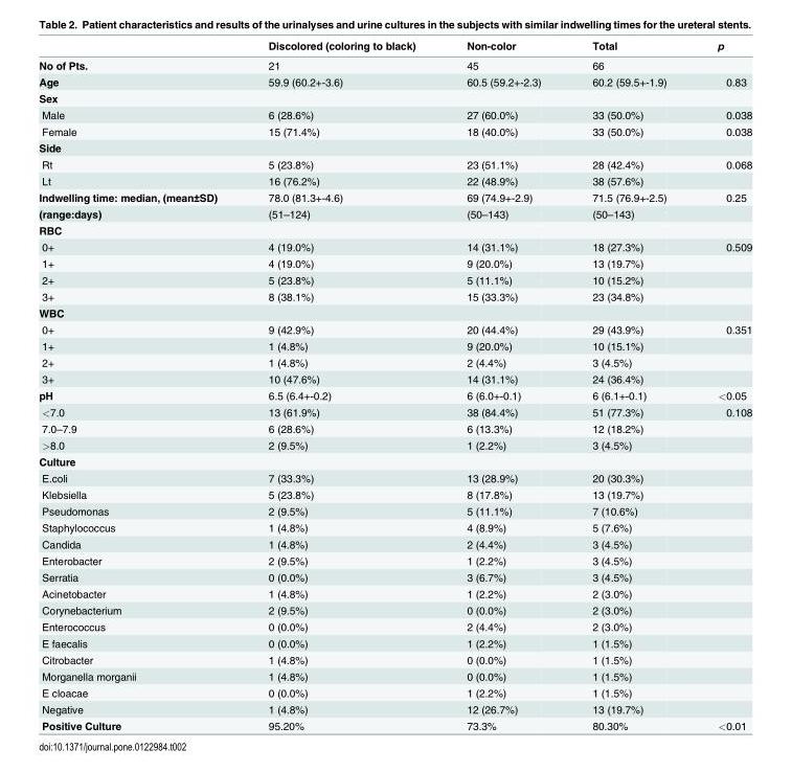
<table><thead><tr><td></td><td>Discolored (coloring to black)</td><td>Non-color</td><td>Total</td><td>p</td></tr></thead><tbody><tr><td>No of Pts.</td><td>21</td><td>45</td><td>66</td><td></td></tr><tr><td>Age</td><td>59.9 (60.2+-3.6)</td><td>60.5 (59.2+-2.3)</td><td>60.2 (59.5+-1.9)</td><td>0.83</td></tr><tr><td colspan="5">Sex</td></tr><tr><td>Male</td><td>6 (28.6%)</td><td>27 (60.0%)</td><td>33 (50.0%)</td><td>0.038</td></tr><tr><td>Female</td><td>15 (71.4%)</td><td>18 (40.0%)</td><td>33 (50.0%)</td><td>0.038</td></tr><tr><td colspan="5">Side</td></tr><tr><td>Rt</td><td>5 (23.8%)</td><td>23 (51.1%)</td><td>28 (42.4%)</td><td>0.068</td></tr><tr><td>Lt</td><td>16 (76.2%)</td><td>22 (48.9%)</td><td>38 (57.6%)</td><td></td></tr><tr><td>Indwelling time: median, (mean±SD)</td><td>78.0 (81.3+-4.6)</td><td>69 (74.9+-2.9)</td><td>71.5 (76.9+-2.5)</td><td>0.25</td></tr><tr><td>(range:days)</td><td>(51–124)</td><td>(50–143)</td><td>(50–143)</td><td></td></tr><tr><td colspan="5">RBC</td></tr><tr><td>0+</td><td>4 (19.0%)</td><td>14 (31.1%)</td><td>18 (27.3%)</td><td>0.509</td></tr><tr><td>1+</td><td>4 (19.0%)</td><td>9 (20.0%)</td><td>13 (19.7%)</td><td></td></tr><tr><td>2+</td><td>5 (23.8%)</td><td>5 (11.1%)</td><td>10 (15.2%)</td><td></td></tr><tr><td>3+</td><td>8 (38.1%)</td><td>15 (33.3%)</td><td>23 (34.8%)</td><td></td></tr><tr><td colspan="5">WBC</td></tr><tr><td>0+</td><td>9 (42.9%)</td><td>20 (44.4%)</td><td>29 (43.9%)</td><td>0.351</td></tr><tr><td>1+</td><td>1 (4.8%)</td><td>9 (20.0%)</td><td>10 (15.1%)</td><td></td></tr><tr><td>2+</td><td>1 (4.8%)</td><td>2 (4.4%)</td><td>3 (4.5%)</td><td></td></tr><tr><td>3+</td><td>10 (47.6%)</td><td>14 (31.1%)</td><td>24 (36.4%)</td><td></td></tr><tr><td>pH</td><td>6.5 (6.4+-0.2)</td><td>6 (6.0+-0.1)</td><td>6 (6.1+-0.1)</td><td>&lt;0.05</td></tr><tr><td>&lt;7.0</td><td>13 (61.9%)</td><td>38 (84.4%)</td><td>51 (77.3%)</td><td>0.108</td></tr><tr><td>7.0–7.9</td><td>6 (28.6%)</td><td>6 (13.3%)</td><td>12 (18.2%)</td><td></td></tr><tr><td>&gt;8.0</td><td>2 (9.5%)</td><td>1 (2.2%)</td><td>3 (4.5%)</td><td></td></tr><tr><td colspan="5">Culture</td></tr><tr><td>E.coli</td><td>7 (33.3%)</td><td>13 (28.9%)</td><td>20 (30.3%)</td><td></td></tr><tr><td>Klebsiella</td><td>5 (23.8%)</td><td>8 (17.8%)</td><td>13 (19.7%)</td><td></td></tr><tr><td>Pseudomonas</td><td>2 (9.5%)</td><td>5 (11.1%)</td><td>7 (10.6%)</td><td></td></tr><tr><td>Staphylococcus</td><td>1 (4.8%)</td><td>4 (8.9%)</td><td>5 (7.6%)</td><td></td></tr><tr><td>Candida</td><td>1 (4.8%)</td><td>2 (4.4%)</td><td>3 (4.5%)</td><td></td></tr><tr><td>Enterobacter</td><td>2 (9.5%)</td><td>1 (2.2%)</td><td>3 (4.5%)</td><td></td></tr><tr><td>Serratia</td><td>0 (0.0%)</td><td>3 (6.7%)</td><td>3 (4.5%)</td><td></td></tr><tr><td>Acinetobacter</td><td>1 (4.8%)</td><td>1 (2.2%)</td><td>2 (3.0%)</td><td></td></tr><tr><td>Corynebacterium</td><td>2 (9.5%)</td><td>0 (0.0%)</td><td>2 (3.0%)</td><td></td></tr><tr><td>Enterococcus</td><td>0 (0.0%)</td><td>2 (4.4%)</td><td>2 (3.0%)</td><td></td></tr><tr><td>E faecalis</td><td>0 (0.0%)</td><td>1 (2.2%)</td><td>1 (1.5%)</td><td></td></tr><tr><td>Citrobacter</td><td>1 (4.8%)</td><td>0 (0.0%)</td><td>1 (1.5%)</td><td></td></tr><tr><td>Morganella morganii</td><td>1 (4.8%)</td><td>0 (0.0%)</td><td>1 (1.5%)</td><td></td></tr><tr><td>E cloacae</td><td>0 (0.0%)</td><td>1 (2.2%)</td><td>1 (1.5%)</td><td></td></tr><tr><td>Negative</td><td>1 (4.8%)</td><td>12 (26.7%)</td><td>13 (19.7%)</td><td></td></tr><tr><td>Positive Culture</td><td>95.20%</td><td>73.3%</td><td>80.30%</td><td>&lt;0.01</td></tr></tbody></table>